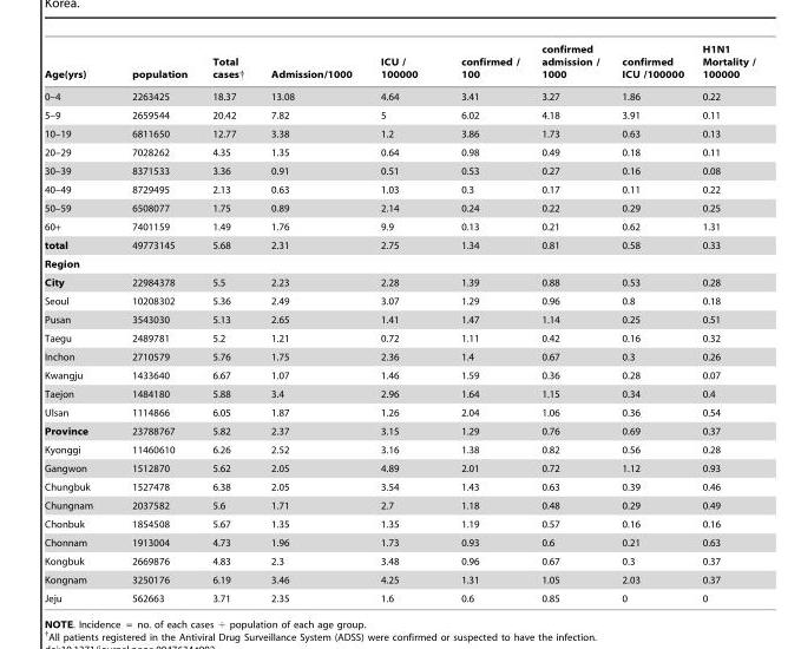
<table><thead><tr><td>Age(yrs)</td><td>population</td><td>Total cases†</td><td>Admission/1000</td><td>ICU / 100000</td><td>confirmed / 100</td><td>confirmed admission / 1000</td><td>confirmed ICU /100000</td><td>H1N1 Mortality / 100000</td></tr></thead><tbody><tr><td>0–4</td><td>2263425</td><td>18.37</td><td>13.08</td><td>4.64</td><td>3.41</td><td>3.27</td><td>1.86</td><td>0.22</td></tr><tr><td>5–9</td><td>2659544</td><td>20.42</td><td>7.82</td><td>5</td><td>6.02</td><td>4.18</td><td>3.91</td><td>0.11</td></tr><tr><td>10–19</td><td>6811650</td><td>12.77</td><td>3.38</td><td>1.2</td><td>3.86</td><td>1.73</td><td>0.63</td><td>0.13</td></tr><tr><td>20–29</td><td>7028262</td><td>4.35</td><td>1.35</td><td>0.64</td><td>0.98</td><td>0.49</td><td>0.18</td><td>0.11</td></tr><tr><td>30–39</td><td>8371533</td><td>3.36</td><td>0.91</td><td>0.51</td><td>0.53</td><td>0.27</td><td>0.16</td><td>0.08</td></tr><tr><td>40–49</td><td>8729495</td><td>2.13</td><td>0.63</td><td>1.03</td><td>0.3</td><td>0.17</td><td>0.11</td><td>0.22</td></tr><tr><td>50–59</td><td>6508077</td><td>1.75</td><td>0.89</td><td>2.14</td><td>0.24</td><td>0.22</td><td>0.29</td><td>0.25</td></tr><tr><td>60+</td><td>7401159</td><td>1.49</td><td>1.76</td><td>9.9</td><td>0.13</td><td>0.21</td><td>0.62</td><td>1.31</td></tr><tr><td>total</td><td>49773145</td><td>5.68</td><td>2.31</td><td>2.75</td><td>1.34</td><td>0.81</td><td>0.58</td><td>0.33</td></tr><tr><td colspan="9">Region</td></tr><tr><td>City</td><td>22984378</td><td>5.5</td><td>2.23</td><td>2.28</td><td>1.39</td><td>0.88</td><td>0.53</td><td>0.28</td></tr><tr><td>Seoul</td><td>10208302</td><td>5.36</td><td>2.49</td><td>3.07</td><td>1.29</td><td>0.96</td><td>0.8</td><td>0.18</td></tr><tr><td>Pusan</td><td>3543030</td><td>5.13</td><td>2.65</td><td>1.41</td><td>1.47</td><td>1.14</td><td>0.25</td><td>0.51</td></tr><tr><td>Taegu</td><td>2489781</td><td>5.2</td><td>1.21</td><td>0.72</td><td>1.11</td><td>0.42</td><td>0.16</td><td>0.32</td></tr><tr><td>Inchon</td><td>2710579</td><td>5.76</td><td>1.75</td><td>2.36</td><td>1.4</td><td>0.67</td><td>0.3</td><td>0.26</td></tr><tr><td>Kwangju</td><td>1433640</td><td>6.67</td><td>1.07</td><td>1.46</td><td>1.59</td><td>0.36</td><td>0.28</td><td>0.07</td></tr><tr><td>Taejon</td><td>1484180</td><td>5.88</td><td>3.4</td><td>2.96</td><td>1.64</td><td>1.15</td><td>0.34</td><td>0.4</td></tr><tr><td>Ulsan</td><td>1114866</td><td>6.05</td><td>1.87</td><td>1.26</td><td>2.04</td><td>1.06</td><td>0.36</td><td>0.54</td></tr><tr><td>Province</td><td>23788767</td><td>5.82</td><td>2.37</td><td>3.15</td><td>1.29</td><td>0.76</td><td>0.69</td><td>0.37</td></tr><tr><td>Kyonggi</td><td>11460610</td><td>6.26</td><td>2.52</td><td>3.16</td><td>1.38</td><td>0.82</td><td>0.56</td><td>0.28</td></tr><tr><td>Gangwon</td><td>1512870</td><td>5.62</td><td>2.05</td><td>4.89</td><td>2.01</td><td>0.72</td><td>1.12</td><td>0.93</td></tr><tr><td>Chungbuk</td><td>1527478</td><td>6.38</td><td>2.05</td><td>3.54</td><td>1.43</td><td>0.63</td><td>0.39</td><td>0.46</td></tr><tr><td>Chungnam</td><td>2037582</td><td>5.6</td><td>1.71</td><td>2.7</td><td>1.18</td><td>0.48</td><td>0.29</td><td>0.49</td></tr><tr><td>Chonbuk</td><td>1854508</td><td>5.67</td><td>1.35</td><td>1.35</td><td>1.19</td><td>0.57</td><td>0.16</td><td>0.16</td></tr><tr><td>Chonnam</td><td>1913004</td><td>4.73</td><td>1.96</td><td>1.73</td><td>0.93</td><td>0.6</td><td>0.21</td><td>0.63</td></tr><tr><td>Kongbuk</td><td>2669876</td><td>4.83</td><td>2.3</td><td>3.48</td><td>0.96</td><td>0.67</td><td>0.3</td><td>0.37</td></tr><tr><td>Kongnam</td><td>3250176</td><td>6.19</td><td>3.46</td><td>4.25</td><td>1.31</td><td>1.05</td><td>2.03</td><td>0.37</td></tr><tr><td>Jeju</td><td>562663</td><td>3.71</td><td>2.35</td><td>1.6</td><td>0.6</td><td>0.85</td><td>0</td><td>0</td></tr></tbody></table>